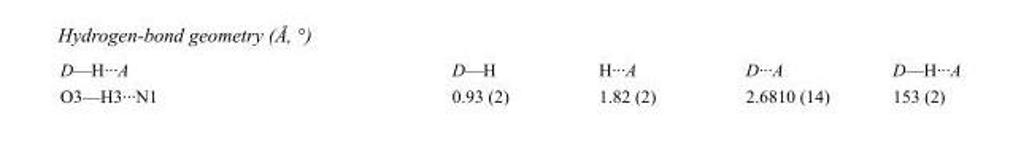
<table><tbody><tr><td>D—H···A</td><td>D—H</td><td>H···A</td><td>D···A</td><td>D—H···A</td></tr><tr><td>O3—H3···N1</td><td>0.93 (2)</td><td>1.82 (2)</td><td>2.6810 (14)</td><td>153 (2)</td></tr></tbody></table>